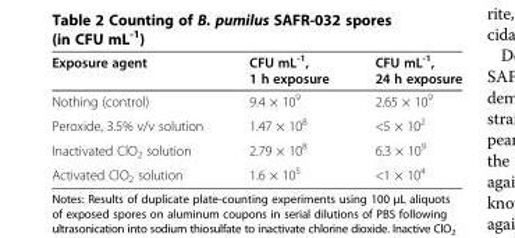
<table><thead><tr><td>Exposure agent</td><td>CFU mL<sup>-1</sup>, 1 h exposure</td><td>CFU mL<sup>-1</sup>, 24 h exposure</td></tr></thead><tbody><tr><td>Nothing (control)</td><td>9.4 × 10<sup>9</sup></td><td>2.65 × 10<sup>9</sup></td></tr><tr><td>Peroxide, 3.5% v/v solution</td><td>1.47 × 10<sup>8</sup></td><td>&lt;5 × 10<sup>2</sup></td></tr><tr><td>Inactivated ClO<sub>2</sub> solution</td><td>2.79 × 10<sup>8</sup></td><td>6.3 × 10<sup>9</sup></td></tr><tr><td>Activated ClO<sub>2</sub> solution</td><td>1.6 × 10<sup>5</sup></td><td>&lt;1 × 10<sup>4</sup></td></tr></tbody></table>